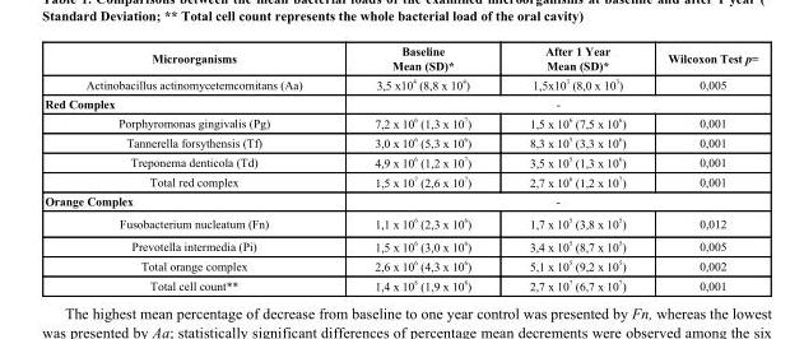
<table><thead><tr><td>Microorganisms</td><td>Baseline Mean (SD)*</td><td>After 1 Year Mean (SD)*</td><td>Wilcoxon Test p=</td></tr></thead><tbody><tr><td>Actinobacillus actinomycetemcomitans (Aa)</td><td>3,5 x10 <sup>4</sup> (8,8 x 10 <sup>4</sup>)</td><td>1,5x10 <sup>3</sup> (8,0 x 10 <sup>3</sup>)</td><td>0,005</td></tr><tr><td>Red Complex</td><td colspan="3">-</td></tr><tr><td>Porphyromonas gingivalis (Pg)</td><td>7,2 x 10 <sup>6</sup> (1,3 x 10 <sup>7</sup>)</td><td>1,5 x 10 <sup>6</sup> (7,5 x 10 <sup>6</sup>)</td><td>0,001</td></tr><tr><td>Tannerella forsythensis (Tf)</td><td>3,0 x 10 <sup>6</sup> (5,3 x 10 <sup>6</sup>)</td><td>8,3 x 10 <sup>5</sup> (3,3 x 10 <sup>6</sup>)</td><td>0,001</td></tr><tr><td>Treponema denticola (Td)</td><td>4,9 x 10 <sup>6</sup> (1,2 x 10 <sup>7</sup>)</td><td>3,5 x 10 <sup>5</sup> (1,3 x 10 <sup>6</sup>)</td><td>0,001</td></tr><tr><td>Total red complex</td><td>1,5 x 10 <sup>7</sup> (2,6 x 10 <sup>7</sup>)</td><td>2,7 x 10 <sup>6</sup> (1,2 x 10 <sup>7</sup>)</td><td>0,001</td></tr><tr><td>Orange Complex</td><td colspan="3">-</td></tr><tr><td>Fusobacterium nucleatum (Fn)</td><td>1,1 x 10 <sup>6</sup> (2,3 x 10 <sup>6</sup>)</td><td>1,7 x 10 <sup>5</sup> (3,8 x 10 <sup>5</sup>)</td><td>0,012</td></tr><tr><td>Prevotella intermedia (Pi)</td><td>1,5 x 10 <sup>6</sup> (3,0 x 10 <sup>6</sup>)</td><td>3,4 x 10 <sup>5</sup> (8,7 x 10 <sup>5</sup>)</td><td>0,005</td></tr><tr><td>Total orange complex</td><td>2,6 x 10 <sup>6</sup> (4,3 x 10 <sup>6</sup>)</td><td>5,1 x 10 <sup>5</sup> (9,2 x 10 <sup>5</sup>)</td><td>0,002</td></tr><tr><td>Total cell count**</td><td>1,4 x 10 <sup>8</sup> (1,9 x 10 <sup>8</sup>)</td><td>2,7 x 10 <sup>7</sup> (6,7 x 10 <sup>7</sup>)</td><td>0,001</td></tr></tbody></table>